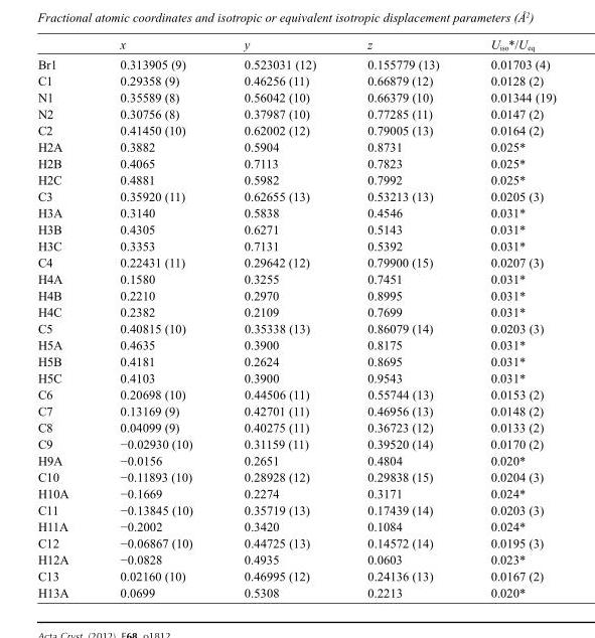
<table><thead><tr><td></td><td>x</td><td>y</td><td>z</td><td>U<sub>iso</sub>*/U<sub>eq</sub></td></tr></thead><tbody><tr><td>Br1</td><td>0.313905 (9)</td><td>0.523031 (12)</td><td>0.155779 (13)</td><td>0.01703 (4)</td></tr><tr><td>C1</td><td>0.29358 (9)</td><td>0.46256 (11)</td><td>0.66879 (12)</td><td>0.0128 (2)</td></tr><tr><td>N1</td><td>0.35589 (8)</td><td>0.56042 (10)</td><td>0.66379 (10)</td><td>0.01344 (19)</td></tr><tr><td>N2</td><td>0.30756 (8)</td><td>0.37987 (10)</td><td>0.77285 (11)</td><td>0.0147 (2)</td></tr><tr><td>C2</td><td>0.41450 (10)</td><td>0.62002 (12)</td><td>0.79005 (13)</td><td>0.0164 (2)</td></tr><tr><td>H2A</td><td>0.3882</td><td>0.5904</td><td>0.8731</td><td>0.025*</td></tr><tr><td>H2B</td><td>0.4065</td><td>0.7113</td><td>0.7823</td><td>0.025*</td></tr><tr><td>H2C</td><td>0.4881</td><td>0.5982</td><td>0.7992</td><td>0.025*</td></tr><tr><td>C3</td><td>0.35920 (11)</td><td>0.62655 (13)</td><td>0.53213 (13)</td><td>0.0205 (3)</td></tr><tr><td>H3A</td><td>0.3140</td><td>0.5838</td><td>0.4546</td><td>0.031*</td></tr><tr><td>H3B</td><td>0.4305</td><td>0.6271</td><td>0.5143</td><td>0.031*</td></tr><tr><td>H3C</td><td>0.3353</td><td>0.7131</td><td>0.5392</td><td>0.031*</td></tr><tr><td>C4</td><td>0.22431 (11)</td><td>0.29642 (12)</td><td>0.79900 (15)</td><td>0.0207 (3)</td></tr><tr><td>H4A</td><td>0.1580</td><td>0.3255</td><td>0.7451</td><td>0.031*</td></tr><tr><td>H4B</td><td>0.2210</td><td>0.2970</td><td>0.8995</td><td>0.031*</td></tr><tr><td>H4C</td><td>0.2382</td><td>0.2109</td><td>0.7699</td><td>0.031*</td></tr><tr><td>C5</td><td>0.40815 (10)</td><td>0.35338 (13)</td><td>0.86079 (14)</td><td>0.0203 (3)</td></tr><tr><td>H5A</td><td>0.4635</td><td>0.3900</td><td>0.8175</td><td>0.031*</td></tr><tr><td>H5B</td><td>0.4181</td><td>0.2624</td><td>0.8695</td><td>0.031*</td></tr><tr><td>H5C</td><td>0.4103</td><td>0.3900</td><td>0.9543</td><td>0.031*</td></tr><tr><td>C6</td><td>0.20698 (10)</td><td>0.44506 (11)</td><td>0.55744 (13)</td><td>0.0153 (2)</td></tr><tr><td>C7</td><td>0.13169 (9)</td><td>0.42701 (11)</td><td>0.46956 (13)</td><td>0.0148 (2)</td></tr><tr><td>C8</td><td>0.04099 (9)</td><td>0.40275 (11)</td><td>0.36723 (12)</td><td>0.0133 (2)</td></tr><tr><td>C9</td><td>−0.02930 (10)</td><td>0.31159 (11)</td><td>0.39520 (14)</td><td>0.0170 (2)</td></tr><tr><td>H9A</td><td>−0.0156</td><td>0.2651</td><td>0.4804</td><td>0.020*</td></tr><tr><td>C10</td><td>−0.11893 (10)</td><td>0.28928 (12)</td><td>0.29838 (15)</td><td>0.0204 (3)</td></tr><tr><td>H10A</td><td>−0.1669</td><td>0.2274</td><td>0.3171</td><td>0.024*</td></tr><tr><td>C11</td><td>−0.13845 (10)</td><td>0.35719 (13)</td><td>0.17439 (14)</td><td>0.0203 (3)</td></tr><tr><td>H11A</td><td>−0.2002</td><td>0.3420</td><td>0.1084</td><td>0.024*</td></tr><tr><td>C12</td><td>−0.06867 (10)</td><td>0.44725 (13)</td><td>0.14572 (14)</td><td>0.0195 (3)</td></tr><tr><td>H12A</td><td>−0.0828</td><td>0.4935</td><td>0.0603</td><td>0.023*</td></tr><tr><td>C13</td><td>0.02160 (10)</td><td>0.46995 (12)</td><td>0.24136 (13)</td><td>0.0167 (2)</td></tr><tr><td>H13A</td><td>0.0699</td><td>0.5308</td><td>0.2213</td><td>0.020*</td></tr></tbody></table>